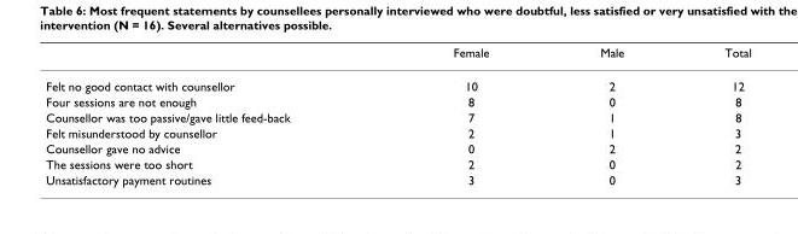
<table><thead><tr><td></td><td>Female</td><td>Male</td><td>Total</td></tr></thead><tbody><tr><td>Felt no good contact with counsellor</td><td>10</td><td>2</td><td>12</td></tr><tr><td>Four sessions are not enough</td><td>8</td><td>0</td><td>8</td></tr><tr><td>Counsellor was too passive/gave little feed-back</td><td>7</td><td>1</td><td>8</td></tr><tr><td>Felt misunderstood by counsellor</td><td>2</td><td>1</td><td>3</td></tr><tr><td>Counsellor gave no advice</td><td>0</td><td>2</td><td>2</td></tr><tr><td>The sessions were too short</td><td>2</td><td>0</td><td>2</td></tr><tr><td>Unsatisfactory payment routines</td><td>3</td><td>0</td><td>3</td></tr></tbody></table>